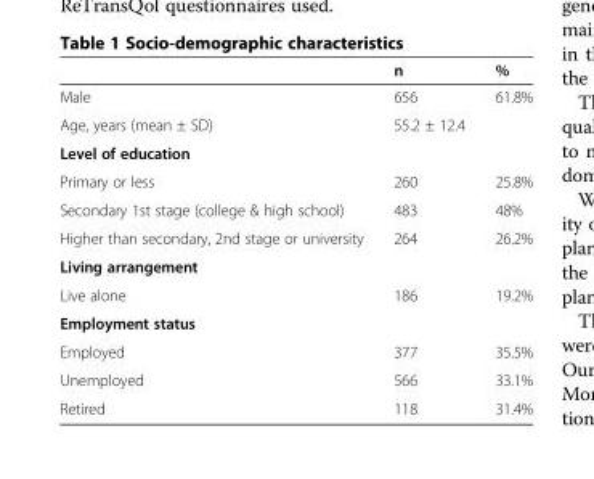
<table><thead><tr><td></td><td>n</td><td>%</td></tr></thead><tbody><tr><td>Male</td><td>656</td><td>61.8%</td></tr><tr><td>Age, years (mean ± SD)</td><td>55.2 ± 12.4</td><td></td></tr><tr><td colspan="3">Level of education</td></tr><tr><td>Primary or less</td><td>260</td><td>25.8%</td></tr><tr><td>Secondary 1st stage (college &amp; high school)</td><td>483</td><td>48%</td></tr><tr><td>Higher than secondary, 2nd stage or university</td><td>264</td><td>26.2%</td></tr><tr><td colspan="3">Living arrangement</td></tr><tr><td>Live alone</td><td>186</td><td>19.2%</td></tr><tr><td colspan="3">Employment status</td></tr><tr><td>Employed</td><td>377</td><td>35.5%</td></tr><tr><td>Unemployed</td><td>566</td><td>33.1%</td></tr><tr><td>Retired</td><td>118</td><td>31.4%</td></tr></tbody></table>